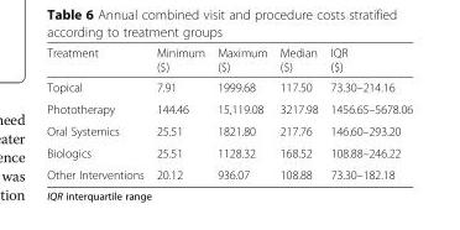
<table><thead><tr><td>Treatment</td><td>Minimum ($)</td><td>Maximum ($)</td><td>Median ($)</td><td>IQR ($)</td></tr></thead><tbody><tr><td>Topical</td><td>7.91</td><td>1999.68</td><td>117.50</td><td>73.30–214.16</td></tr><tr><td>Phototherapy</td><td>144.46</td><td>15,119.08</td><td>3217.98</td><td>1456.65–5678.06</td></tr><tr><td>Oral Systemics</td><td>25.51</td><td>1821.80</td><td>217.76</td><td>146.60–293.20</td></tr><tr><td>Biologics</td><td>25.51</td><td>1128.32</td><td>168.52</td><td>108.88–246.22</td></tr><tr><td>Other Interventions</td><td>20.12</td><td>936.07</td><td>108.88</td><td>73.30–182.18</td></tr></tbody></table>